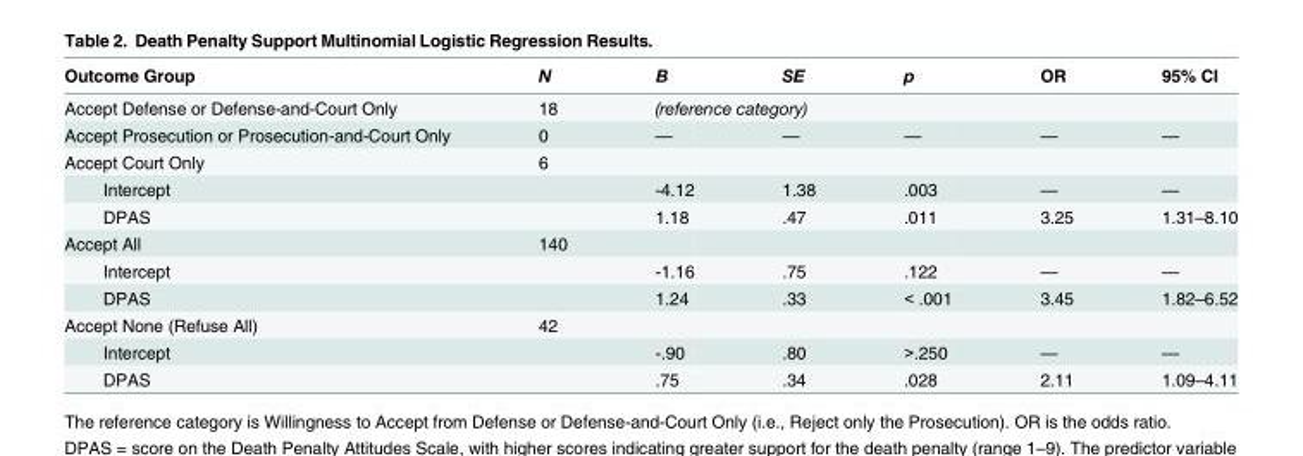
<table><thead><tr><td>Outcome Group</td><td>N</td><td>Β</td><td>SE</td><td>p</td><td>OR</td><td>95% CI</td></tr></thead><tbody><tr><td>Accept Defense or Defense-and-Court Only</td><td>18</td><td colspan="5">(reference category)</td></tr><tr><td>Accept Prosecution or Prosecution-and-Court Only</td><td>0</td><td>—</td><td>—</td><td>—</td><td>—</td><td>—</td></tr><tr><td>Accept Court Only</td><td>6</td><td></td><td></td><td></td><td></td><td></td></tr><tr><td>Intercept</td><td></td><td>-4.12</td><td>1.38</td><td>.003</td><td>—</td><td>—</td></tr><tr><td>DPAS</td><td></td><td>1.18</td><td>.47</td><td>.011</td><td>3.25</td><td>1.31–8.10</td></tr><tr><td>Accept All</td><td>140</td><td></td><td></td><td></td><td></td><td></td></tr><tr><td>Intercept</td><td></td><td>-1.16</td><td>.75</td><td>.122</td><td>—</td><td>—</td></tr><tr><td>DPAS</td><td></td><td>1.24</td><td>.33</td><td>&lt; .001</td><td>3.45</td><td>1.82–6.52</td></tr><tr><td>Accept None (Refuse All)</td><td>42</td><td></td><td></td><td></td><td></td><td></td></tr><tr><td>Intercept</td><td></td><td>-.90</td><td>.80</td><td>&gt;.250</td><td>—</td><td>—</td></tr><tr><td>DPAS</td><td></td><td>.75</td><td>.34</td><td>.028</td><td>2.11</td><td>1.09–4.11</td></tr></tbody></table>